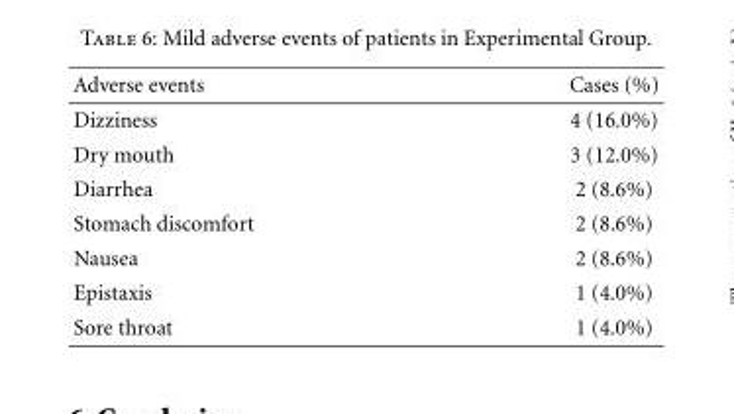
<table><thead><tr><td>Adverse events</td><td>Cases (%)</td></tr></thead><tbody><tr><td>Dizziness</td><td>4 (16.0%)</td></tr><tr><td>Dry mouth</td><td>3 (12.0%)</td></tr><tr><td>Diarrhea</td><td>2 (8.6%)</td></tr><tr><td>Stomach discomfort</td><td>2 (8.6%)</td></tr><tr><td>Nausea</td><td>2 (8.6%)</td></tr><tr><td>Epistaxis</td><td>1 (4.0%)</td></tr><tr><td>Sore throat</td><td>1 (4.0%)</td></tr></tbody></table>